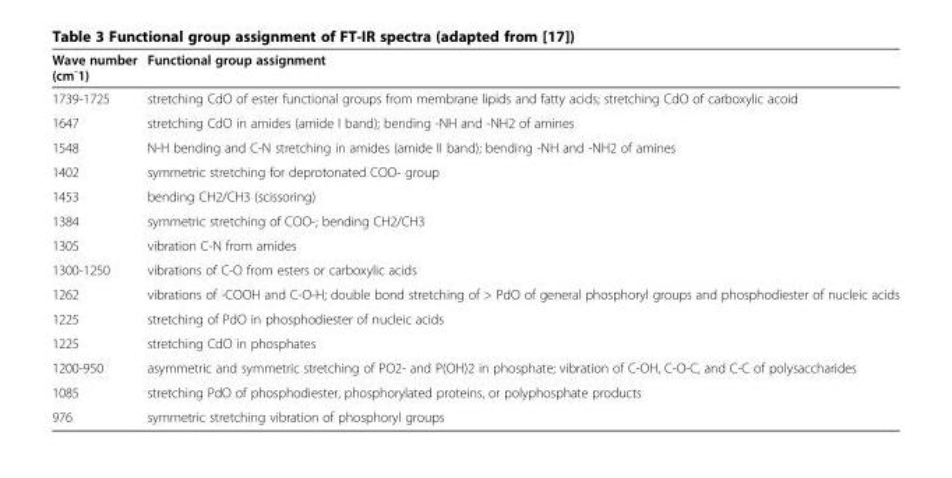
<table><thead><tr><td>Wave number (cm<sup>-</sup>1)</td><td>Functional group assignment</td></tr></thead><tbody><tr><td>1739-1725</td><td>stretching CdO of ester functional groups from membrane lipids and fatty acids; stretching CdO of carboxylic acoid</td></tr><tr><td>1647</td><td>stretching CdO in amides (amide I band); bending -NH and -NH2 of amines</td></tr><tr><td>1548</td><td>N-H bending and C-N stretching in amides (amide II band); bending -NH and -NH2 of amines</td></tr><tr><td>1402</td><td>symmetric stretching for deprotonated COO- group</td></tr><tr><td>1453</td><td>bending CH2/CH3 (scissoring)</td></tr><tr><td>1384</td><td>symmetric stretching of COO-; bending CH2/CH3</td></tr><tr><td>1305</td><td>vibration C-N from amides</td></tr><tr><td>1300-1250</td><td>vibrations of C-O from esters or carboxylic acids</td></tr><tr><td>1262</td><td>vibrations of -COOH and C-O-H; double bond stretching of &gt; PdO of general phosphoryl groups and phosphodiester of nucleic acids</td></tr><tr><td>1225</td><td>stretching of PdO in phosphodiester of nucleic acids</td></tr><tr><td>1225</td><td>stretching CdO in phosphates</td></tr><tr><td>1200-950</td><td>asymmetric and symmetric stretching of PO2- and P(OH)2 in phosphate; vibration of C-OH, C-O-C, and C-C of polysaccharides</td></tr><tr><td>1085</td><td>stretching PdO of phosphodiester, phosphorylated proteins, or polyphosphate products</td></tr><tr><td>976</td><td>symmetric stretching vibration of phosphoryl groups</td></tr></tbody></table>